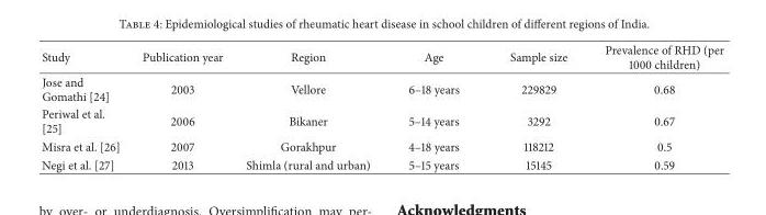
<table><thead><tr><td>Study</td><td>Publication year</td><td>Region</td><td>Age</td><td>Sample size</td><td>Prevalence of RHD (per 1000 children)</td></tr></thead><tbody><tr><td>Jose and Gomathi [24]</td><td>2003</td><td>Vellore</td><td>6–18 years</td><td>229829</td><td>0.68</td></tr><tr><td>Periwal et al. [25]</td><td>2006</td><td>Bikaner</td><td>5–14 years</td><td>3292</td><td>0.67</td></tr><tr><td>Misra et al. [26]</td><td>2007</td><td>Gorakhpur</td><td>4–18 years</td><td>118212</td><td>0.5</td></tr><tr><td>Negi et al. [27]</td><td>2013</td><td>Shimla (rural and urban)</td><td>5–15 years</td><td>15145</td><td>0.59</td></tr></tbody></table>